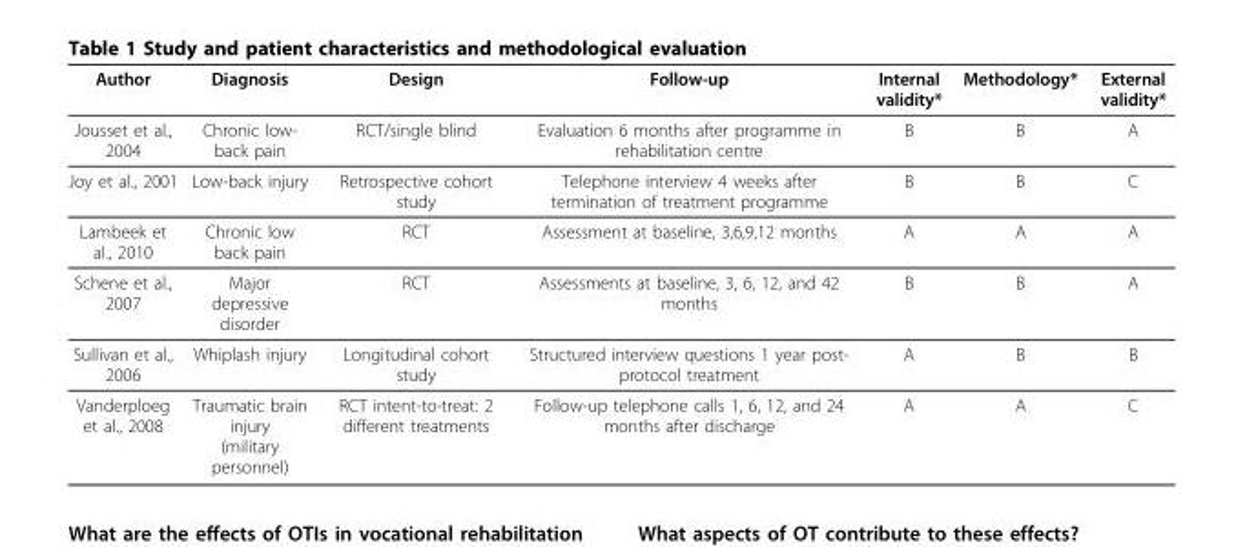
<table><thead><tr><td>Author</td><td>Diagnosis</td><td>Design</td><td>Follow-up</td><td>Internal validity*</td><td>Methodology*</td><td>External validity*</td></tr></thead><tbody><tr><td>Jousset et al., 2004</td><td>Chronic low- back pain</td><td>RCT/single blind</td><td>Evaluation 6 months after programme in rehabilitation centre</td><td>B</td><td>B</td><td>A</td></tr><tr><td>Joy et al., 2001</td><td>Low-back injury</td><td>Retrospective cohort study</td><td>Telephone interview 4 weeks after termination of treatment programme</td><td>B</td><td>B</td><td>C</td></tr><tr><td>Lambeek et al., 2010</td><td>Chronic low back pain</td><td>RCT</td><td>Assessment at baseline, 3,6,9,12 months</td><td>A</td><td>A</td><td>A</td></tr><tr><td>Schene et al., 2007</td><td>Major depressive disorder</td><td>RCT</td><td>Assessments at baseline, 3, 6, 12, and 42 months</td><td>B</td><td>B</td><td>A</td></tr><tr><td>Sullivan et al., 2006</td><td>Whiplash injury</td><td>Longitudinal cohort study</td><td>Structured interview questions 1 year post- protocol treatment</td><td>A</td><td>B</td><td>B</td></tr><tr><td>Vanderploeg et al., 2008</td><td>Traumatic brain injury (military personnel)</td><td>RCT intent-to-treat: 2 different treatments</td><td>Follow-up telephone calls 1, 6, 12, and 24 months after discharge</td><td>A</td><td>A</td><td>C</td></tr></tbody></table>